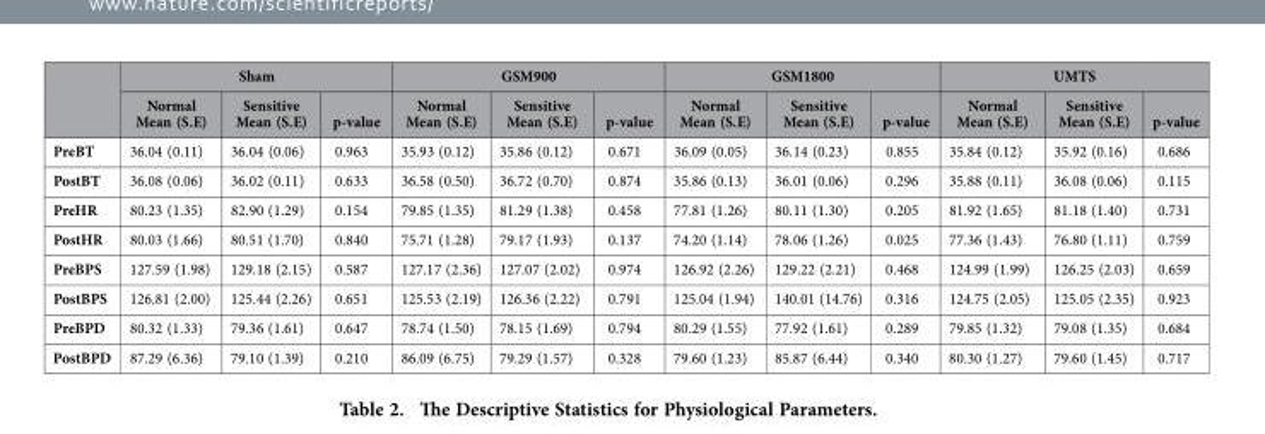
<table><thead><tr><td rowspan="2"></td><td colspan="3">Sham</td><td colspan="3">GSM900</td><td colspan="3">GSM1800</td><td colspan="3">UMTS</td></tr><tr><td>Normal Mean (S.E)</td><td>Sensitive Mean (S.E)</td><td>p-value</td><td>Normal Mean (S.E)</td><td>Sensitive Mean (S.E)</td><td>p-value</td><td>Normal Mean (S.E)</td><td>Sensitive Mean (S.E)</td><td>p-value</td><td>Normal Mean (S.E)</td><td>Sensitive Mean (S.E)</td><td>p-value</td></tr></thead><tbody><tr><td>PreBT</td><td>36.04 (0.11)</td><td>36.04 (0.06)</td><td>0.963</td><td>35.93 (0.12)</td><td>35.86 (0.12)</td><td>0.671</td><td>36.09 (0.05)</td><td>36.14 (0.23)</td><td>0.855</td><td>35.84 (0.12)</td><td>35.92 (0.16)</td><td>0.686</td></tr><tr><td>PostBT</td><td>36.08 (0.06)</td><td>36.02 (0.11)</td><td>0.633</td><td>36.58 (0.50)</td><td>36.72 (0.70)</td><td>0.874</td><td>35.86 (0.13)</td><td>36.01 (0.06)</td><td>0.296</td><td>35.88 (0.11)</td><td>36.08 (0.06)</td><td>0.115</td></tr><tr><td>PreHR</td><td>80.23 (1.35)</td><td>82.90 (1.29)</td><td>0.154</td><td>79.85 (1.35)</td><td>81.29 (1.38)</td><td>0.458</td><td>77.81 (1.26)</td><td>80.11 (1.30)</td><td>0.205</td><td>81.92 (1.65)</td><td>81.18 (1.40)</td><td>0.731</td></tr><tr><td>PostHR</td><td>80.03 (1.66)</td><td>80.51 (1.70)</td><td>0.840</td><td>75.71 (1.28)</td><td>79.17 (1.93)</td><td>0.137</td><td>74.20 (1.14)</td><td>78.06 (1.26)</td><td>0.025</td><td>77.36 (1.43)</td><td>76.80 (1.11)</td><td>0.759</td></tr><tr><td>PreBPS</td><td>127.59 (1.98)</td><td>129.18 (2.15)</td><td>0.587</td><td>127.17 (2.36)</td><td>127.07 (2.02)</td><td>0.974</td><td>126.92 (2.26)</td><td>129.22 (2.21)</td><td>0.468</td><td>124.99 (1.99)</td><td>126.25 (2.03)</td><td>0.659</td></tr><tr><td>PostBPS</td><td>126.81 (2.00)</td><td>125.44 (2.26)</td><td>0.651</td><td>125.53 (2.19)</td><td>126.36 (2.22)</td><td>0.791</td><td>125.04 (1.94)</td><td>140.01 (14.76)</td><td>0.316</td><td>124.75 (2.05)</td><td>125.05 (2.35)</td><td>0.923</td></tr><tr><td>PreBPD</td><td>80.32 (1.33)</td><td>79.36 (1.61)</td><td>0.647</td><td>78.74 (1.50)</td><td>78.15 (1.69)</td><td>0.794</td><td>80.29 (1.55)</td><td>77.92 (1.61)</td><td>0.289</td><td>79.85 (1.32)</td><td>79.08 (1.35)</td><td>0.684</td></tr><tr><td>PostBPD</td><td>87.29 (6.36)</td><td>79.10 (1.39)</td><td>0.210</td><td>86.09 (6.75)</td><td>79.29 (1.57)</td><td>0.328</td><td>79.60 (1.23)</td><td>85.87 (6.44)</td><td>0.340</td><td>80.30 (1.27)</td><td>79.60 (1.45)</td><td>0.717</td></tr></tbody></table>